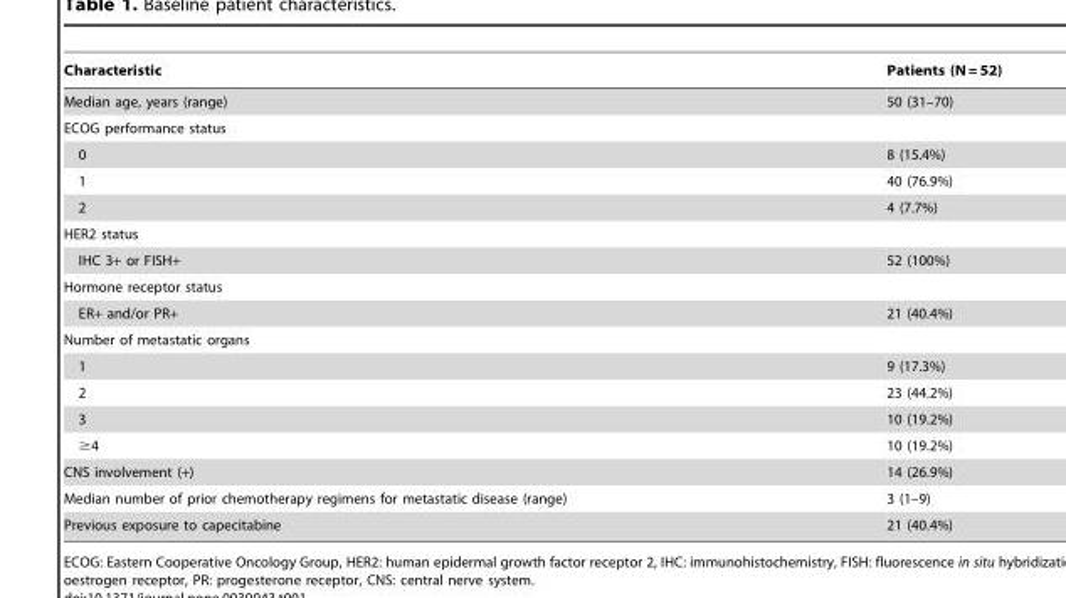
<table><thead><tr><td>Characteristic</td><td>Patients (N = 52)</td></tr></thead><tbody><tr><td>Median age, years (range)</td><td>50 (31–70)</td></tr><tr><td colspan="2">ECOG performance status</td></tr><tr><td>0</td><td>8 (15.4%)</td></tr><tr><td>1</td><td>40 (76.9%)</td></tr><tr><td>2</td><td>4 (7.7%)</td></tr><tr><td colspan="2">HER2 status</td></tr><tr><td>IHC 3+ or FISH+</td><td>52 (100%)</td></tr><tr><td colspan="2">Hormone receptor status</td></tr><tr><td>ER+ and/or PR+</td><td>21 (40.4%)</td></tr><tr><td colspan="2">Number of metastatic organs</td></tr><tr><td>1</td><td>9 (17.3%)</td></tr><tr><td>2</td><td>23 (44.2%)</td></tr><tr><td>3</td><td>10 (19.2%)</td></tr><tr><td>≥4</td><td>10 (19.2%)</td></tr><tr><td>CNS involvement (+)</td><td>14 (26.9%)</td></tr><tr><td>Median number of prior chemotherapy regimens for metastatic disease (range)</td><td>3 (1–9)</td></tr><tr><td>Previous exposure to capecitabine</td><td>21 (40.4%)</td></tr></tbody></table>